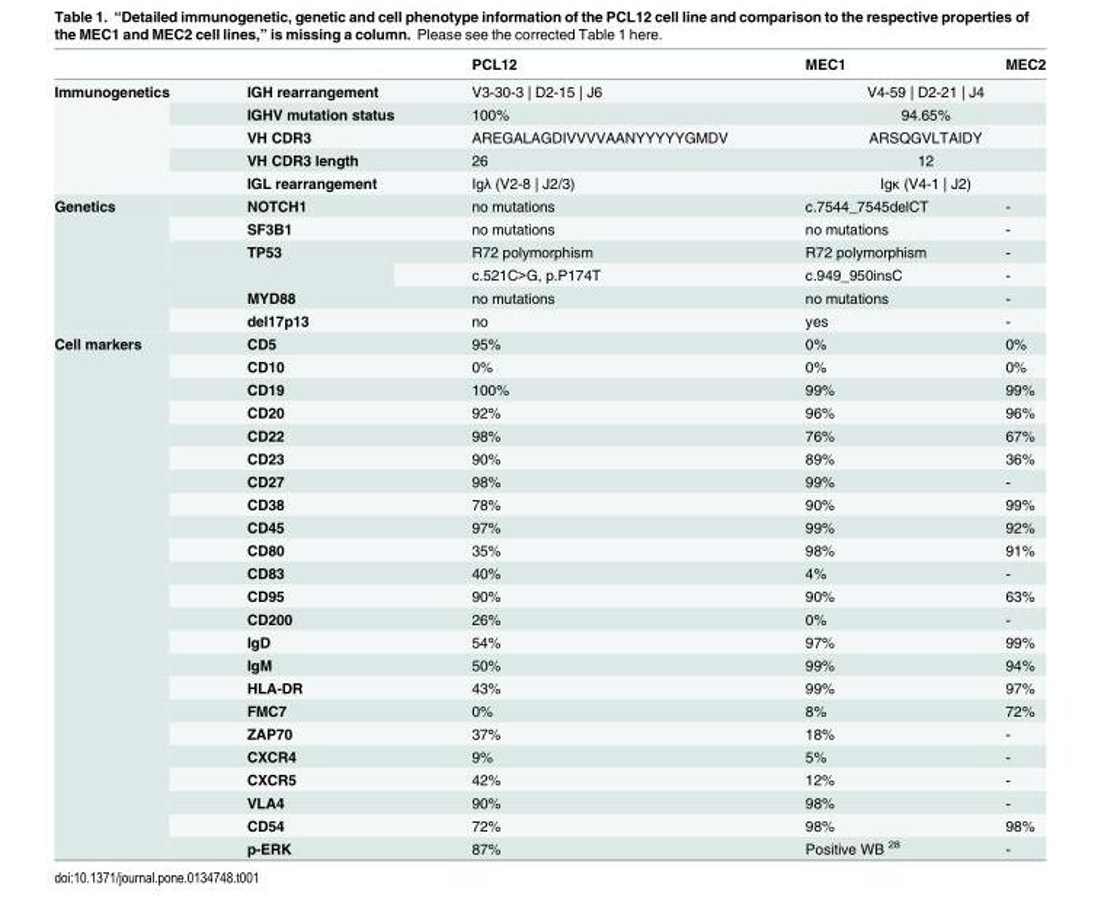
<table><thead><tr><td></td><td></td><td>PCL12</td><td>MEC1</td><td>MEC2</td></tr></thead><tbody><tr><td rowspan="5">Immunogenetics</td><td>IGH rearrangement</td><td>V3-30-3 | D2-15 | J6</td><td colspan="2">V4-59 | D2-21 | J4</td></tr><tr><td>IGHV mutation status</td><td>100%</td><td colspan="2">94.65%</td></tr><tr><td>VH CDR3</td><td>AREGALAGDIVVVVAANYYYYYGMDV</td><td colspan="2">ARSQGVLTAIDY</td></tr><tr><td>VH CDR3 length</td><td>26</td><td colspan="2">12</td></tr><tr><td>IGL rearrangement</td><td>Igλ (V2-8 | J2/3)</td><td colspan="2">Igκ (V4-1 | J2)</td></tr><tr><td rowspan="6">Genetics</td><td>NOTCH1</td><td>no mutations</td><td>c.7544_7545delCT</td><td>-</td></tr><tr><td>SF3B1</td><td>no mutations</td><td>no mutations</td><td>-</td></tr><tr><td rowspan="2">TP53</td><td>R72 polymorphism</td><td>R72 polymorphism</td><td>-</td></tr><tr><td>c.521C&gt;G, p.P174T</td><td>c.949_950insC</td><td>-</td></tr><tr><td>MYD88</td><td>no mutations</td><td>no mutations</td><td>-</td></tr><tr><td>del17p13</td><td>no</td><td>yes</td><td>-</td></tr><tr><td rowspan="23">Cell markers</td><td>CD5</td><td>95%</td><td>0%</td><td>0%</td></tr><tr><td>CD10</td><td>0%</td><td>0%</td><td>0%</td></tr><tr><td>CD19</td><td>100%</td><td>99%</td><td>99%</td></tr><tr><td>CD20</td><td>92%</td><td>96%</td><td>96%</td></tr><tr><td>CD22</td><td>98%</td><td>76%</td><td>67%</td></tr><tr><td>CD23</td><td>90%</td><td>89%</td><td>36%</td></tr><tr><td>CD27</td><td>98%</td><td>99%</td><td>-</td></tr><tr><td>CD38</td><td>78%</td><td>90%</td><td>99%</td></tr><tr><td>CD45</td><td>97%</td><td>99%</td><td>92%</td></tr><tr><td>CD80</td><td>35%</td><td>98%</td><td>91%</td></tr><tr><td>CD83</td><td>40%</td><td>4%</td><td>-</td></tr><tr><td>CD95</td><td>90%</td><td>90%</td><td>63%</td></tr><tr><td>CD200</td><td>26%</td><td>0%</td><td>-</td></tr><tr><td>IgD</td><td>54%</td><td>97%</td><td>99%</td></tr><tr><td>IgM</td><td>50%</td><td>99%</td><td>94%</td></tr><tr><td>HLA-DR</td><td>43%</td><td>99%</td><td>97%</td></tr><tr><td>FMC7</td><td>0%</td><td>8%</td><td>72%</td></tr><tr><td>ZAP70</td><td>37%</td><td>18%</td><td>-</td></tr><tr><td>CXCR4</td><td>9%</td><td>5%</td><td>-</td></tr><tr><td>CXCR5</td><td>42%</td><td>12%</td><td>-</td></tr><tr><td>VLA4</td><td>90%</td><td>98%</td><td>-</td></tr><tr><td>CD54</td><td>72%</td><td>98%</td><td>98%</td></tr><tr><td>p-ERK</td><td>87%</td><td>Positive WB <sup>28</sup></td><td>-</td></tr></tbody></table>